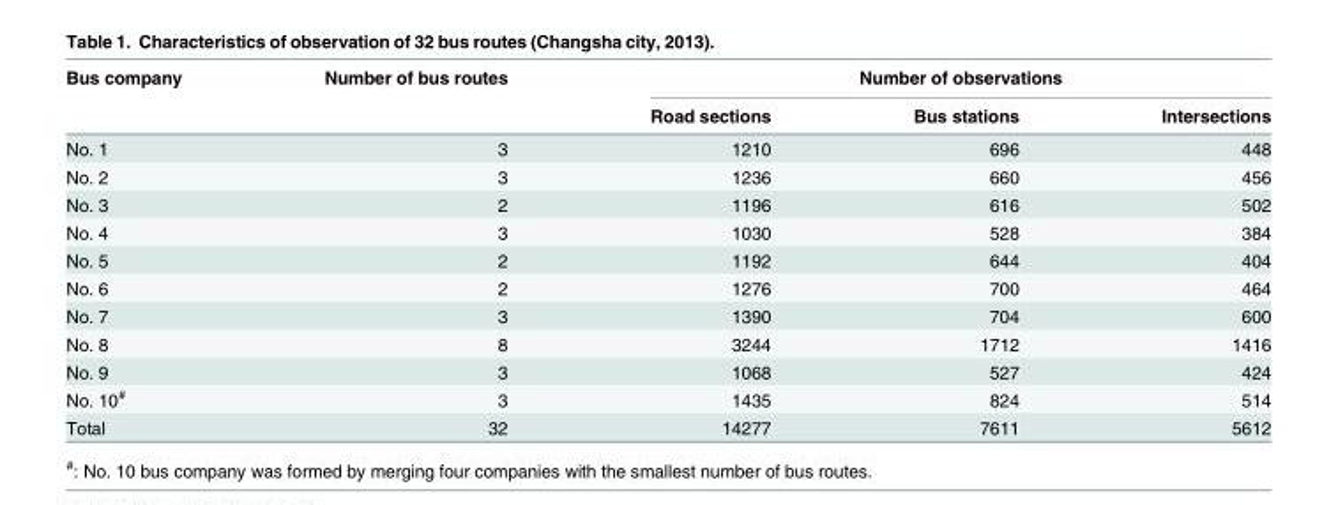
<table><thead><tr><td rowspan="2">Bus company</td><td rowspan="2">Number of bus routes</td><td colspan="3">Number of observations</td></tr><tr><td>Road sections</td><td>Bus stations</td><td>Intersections</td></tr></thead><tbody><tr><td>No. 1</td><td>3</td><td>1210</td><td>696</td><td>448</td></tr><tr><td>No. 2</td><td>3</td><td>1236</td><td>660</td><td>456</td></tr><tr><td>No. 3</td><td>2</td><td>1196</td><td>616</td><td>502</td></tr><tr><td>No. 4</td><td>3</td><td>1030</td><td>528</td><td>384</td></tr><tr><td>No. 5</td><td>2</td><td>1192</td><td>644</td><td>404</td></tr><tr><td>No. 6</td><td>2</td><td>1276</td><td>700</td><td>464</td></tr><tr><td>No. 7</td><td>3</td><td>1390</td><td>704</td><td>600</td></tr><tr><td>No. 8</td><td>8</td><td>3244</td><td>1712</td><td>1416</td></tr><tr><td>No. 9</td><td>3</td><td>1068</td><td>527</td><td>424</td></tr><tr><td>No. 10<sup>#</sup></td><td>3</td><td>1435</td><td>824</td><td>514</td></tr><tr><td>Total</td><td>32</td><td>14277</td><td>7611</td><td>5612</td></tr></tbody></table>